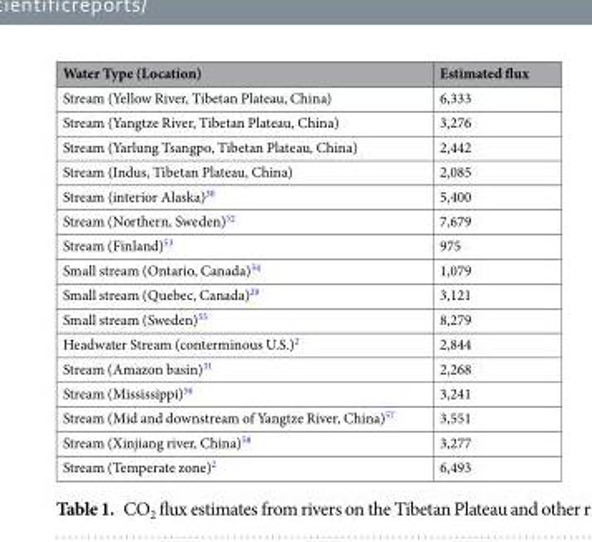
<table><thead><tr><td>Water Type (Location)</td><td>Estimated flux</td></tr></thead><tbody><tr><td>Stream (Yellow River, Tibetan Plateau, China)</td><td>6,333</td></tr><tr><td>Stream (Yangtze River, Tibetan Plateau, China)</td><td>3,276</td></tr><tr><td>Stream (Yarlung Tsangpo, Tibetan Plateau, China)</td><td>2,442</td></tr><tr><td>Stream (Indus, Tibetan Plateau, China)</td><td>2,085</td></tr><tr><td>Stream (interior Alaska)<sup>30</sup></td><td>5,400</td></tr><tr><td>Stream (Northern, Sweden)<sup>52</sup></td><td>7,679</td></tr><tr><td>Stream (Finland)<sup>53</sup></td><td>975</td></tr><tr><td>Small stream (Ontario, Canada)<sup>54</sup></td><td>1,079</td></tr><tr><td>Small stream (Quebec, Canada)<sup>29</sup></td><td>3,121</td></tr><tr><td>Small stream (Sweden)<sup>55</sup></td><td>8,279</td></tr><tr><td>Headwater Stream (conterminous U.S.)<sup>2</sup></td><td>2,844</td></tr><tr><td>Stream (Amazon basin)<sup>31</sup></td><td>2,268</td></tr><tr><td>Stream (Mississippi)<sup>56</sup></td><td>3,241</td></tr><tr><td>Stream (Mid and downstream of Yangtze River, China)<sup>57</sup></td><td>3,551</td></tr><tr><td>Stream (Xinjiang river, China)<sup>58</sup></td><td>3,277</td></tr><tr><td>Stream (Temperate zone)<sup>2</sup></td><td>6,493</td></tr></tbody></table>